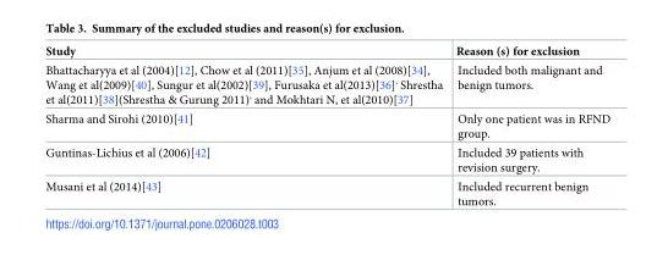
<table><thead><tr><td>Study</td><td>Reason (s) for exclusion</td></tr></thead><tbody><tr><td>Bhattacharyya et al (2004)[12], Chow et al (2011)[35], Anjum et al (2008)[34], Wang et al(2009)[40], Sungur et al(2002)[39], Furusaka et al(2013)[36]<sup>,</sup> Shrestha et al(2011)[38](Shrestha &amp; Gurung 2011)<sup>,</sup> and Mokhtari N, et al(2010)[37]</td><td>Included both malignant and benign tumors.</td></tr><tr><td>Sharma and Sirohi (2010)[41]</td><td>Only one patient was in RFND group.</td></tr><tr><td>Guntinas-Lichius et al (2006)[42]</td><td>Included 39 patients with revision surgery.</td></tr><tr><td>Musani et al (2014)[43]</td><td>Included recurrent benign tumors.</td></tr></tbody></table>